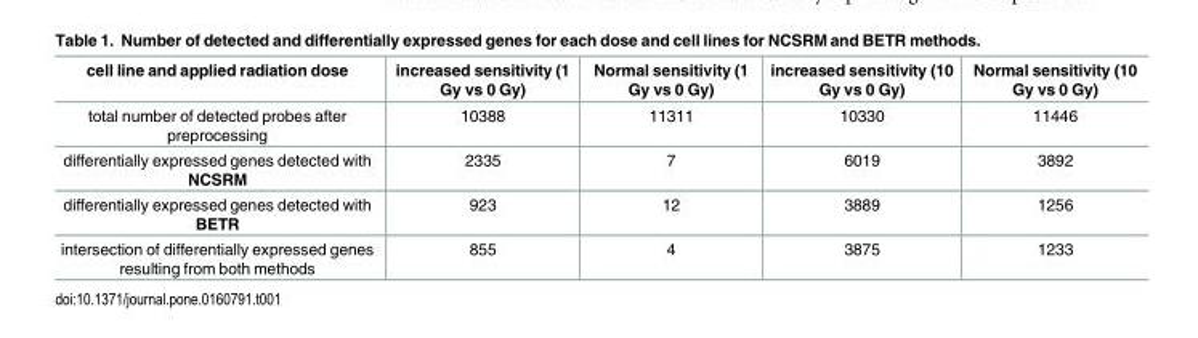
<table><thead><tr><td>cell line and applied radiation dose</td><td>increased sensitivity (1 Gy vs 0 Gy)</td><td>Normal sensitivity (1 Gy vs 0 Gy)</td><td>increased sensitivity (10 Gy vs 0 Gy)</td><td>Normal sensitivity (10 Gy vs 0 Gy)</td></tr></thead><tbody><tr><td>total number of detected probes after preprocessing</td><td>10388</td><td>11311</td><td>10330</td><td>11446</td></tr><tr><td>differentially expressed genes detected with NCSRM</td><td>2335</td><td>7</td><td>6019</td><td>3892</td></tr><tr><td>differentially expressed genes detected with BETR</td><td>923</td><td>12</td><td>3889</td><td>1256</td></tr><tr><td>intersection of differentially expressed genes resulting from both methods</td><td>855</td><td>4</td><td>3875</td><td>1233</td></tr></tbody></table>